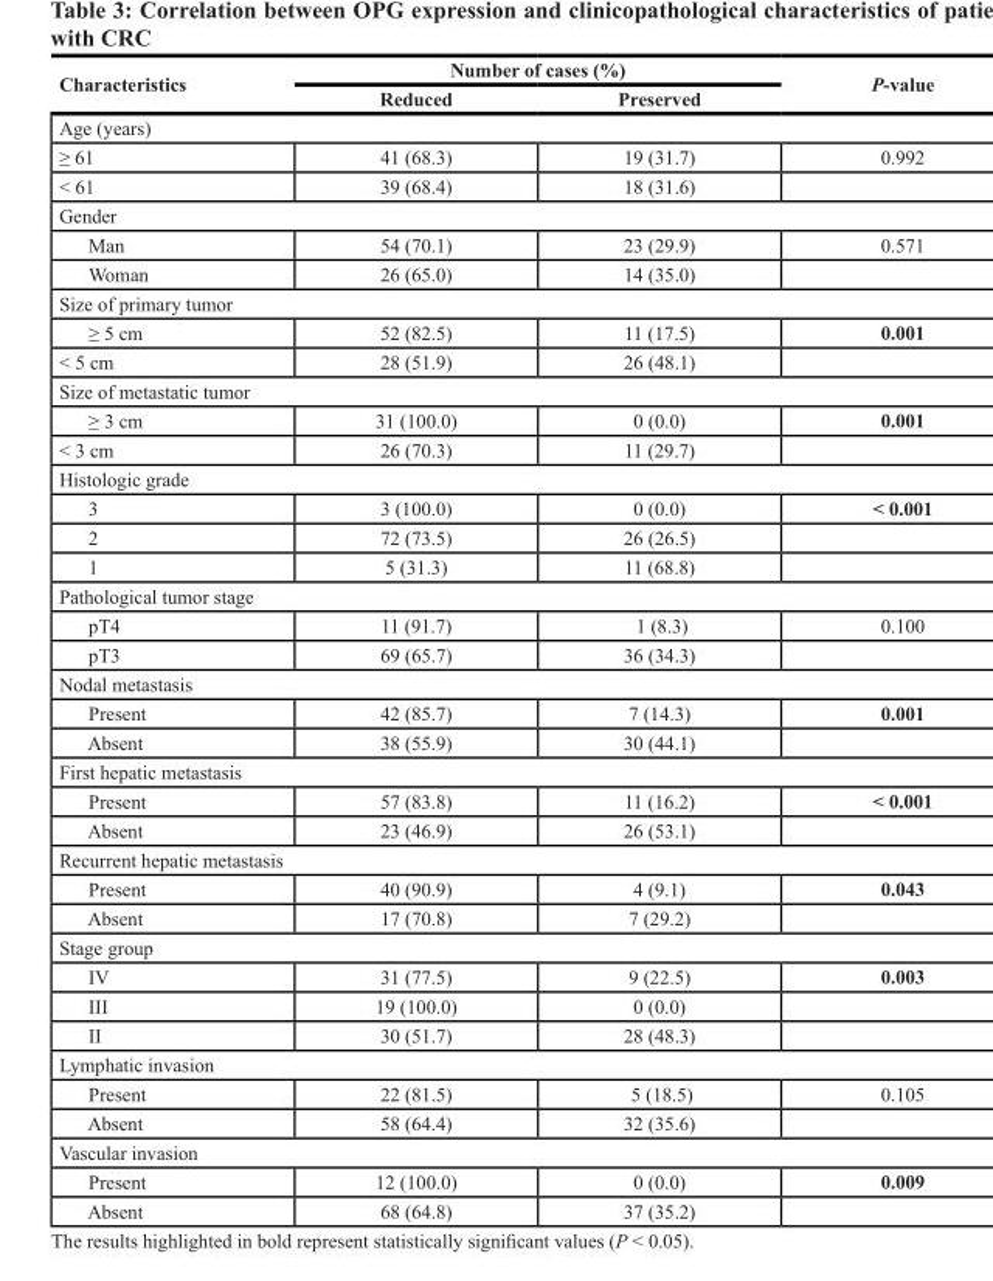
<table><thead><tr><td rowspan="2">Characteristics</td><td colspan="2">Number of cases (%)</td><td rowspan="2">P-value</td></tr><tr><td>Reduced</td><td>Preserved</td></tr></thead><tbody><tr><td colspan="4">Age (years)</td></tr><tr><td>≥ 61</td><td>41 (68.3)</td><td>19 (31.7)</td><td>0.992</td></tr><tr><td>&lt; 61</td><td>39 (68.4)</td><td>18 (31.6)</td><td></td></tr><tr><td colspan="4">Gender</td></tr><tr><td>Man</td><td>54 (70.1)</td><td>23 (29.9)</td><td>0.571</td></tr><tr><td>Woman</td><td>26 (65.0)</td><td>14 (35.0)</td><td></td></tr><tr><td colspan="4">Size of primary tumor</td></tr><tr><td>≥ 5 cm</td><td>52 (82.5)</td><td>11 (17.5)</td><td>0.001</td></tr><tr><td>&lt; 5 cm</td><td>28 (51.9)</td><td>26 (48.1)</td><td></td></tr><tr><td colspan="4">Size of metastatic tumor</td></tr><tr><td>≥ 3 cm</td><td>31 (100.0)</td><td>0 (0.0)</td><td>0.001</td></tr><tr><td>&lt; 3 cm</td><td>26 (70.3)</td><td>11 (29.7)</td><td></td></tr><tr><td colspan="4">Histologic grade</td></tr><tr><td>3</td><td>3 (100.0)</td><td>0 (0.0)</td><td>&lt; 0.001</td></tr><tr><td>2</td><td>72 (73.5)</td><td>26 (26.5)</td><td></td></tr><tr><td>1</td><td>5 (31.3)</td><td>11 (68.8)</td><td></td></tr><tr><td colspan="4">Pathological tumor stage</td></tr><tr><td>pT4</td><td>11 (91.7)</td><td>1 (8.3)</td><td>0.100</td></tr><tr><td>pT3</td><td>69 (65.7)</td><td>36 (34.3)</td><td></td></tr><tr><td colspan="4">Nodal metastasis</td></tr><tr><td>Present</td><td>42 (85.7)</td><td>7 (14.3)</td><td>0.001</td></tr><tr><td>Absent</td><td>38 (55.9)</td><td>30 (44.1)</td><td></td></tr><tr><td colspan="4">First hepatic metastasis</td></tr><tr><td>Present</td><td>57 (83.8)</td><td>11 (16.2)</td><td>&lt; 0.001</td></tr><tr><td>Absent</td><td>23 (46.9)</td><td>26 (53.1)</td><td></td></tr><tr><td colspan="4">Recurrent hepatic metastasis</td></tr><tr><td>Present</td><td>40 (90.9)</td><td>4 (9.1)</td><td>0.043</td></tr><tr><td>Absent</td><td>17 (70.8)</td><td>7 (29.2)</td><td></td></tr><tr><td colspan="4">Stage group</td></tr><tr><td>IV</td><td>31 (77.5)</td><td>9 (22.5)</td><td>0.003</td></tr><tr><td>III</td><td>19 (100.0)</td><td>0 (0.0)</td><td></td></tr><tr><td>II</td><td>30 (51.7)</td><td>28 (48.3)</td><td></td></tr><tr><td colspan="4">Lymphatic invasion</td></tr><tr><td>Present</td><td>22 (81.5)</td><td>5 (18.5)</td><td>0.105</td></tr><tr><td>Absent</td><td>58 (64.4)</td><td>32 (35.6)</td><td></td></tr><tr><td colspan="4">Vascular invasion</td></tr><tr><td>Present</td><td>12 (100.0)</td><td>0 (0.0)</td><td>0.009</td></tr><tr><td>Absent</td><td>68 (64.8)</td><td>37 (35.2)</td><td></td></tr></tbody></table>